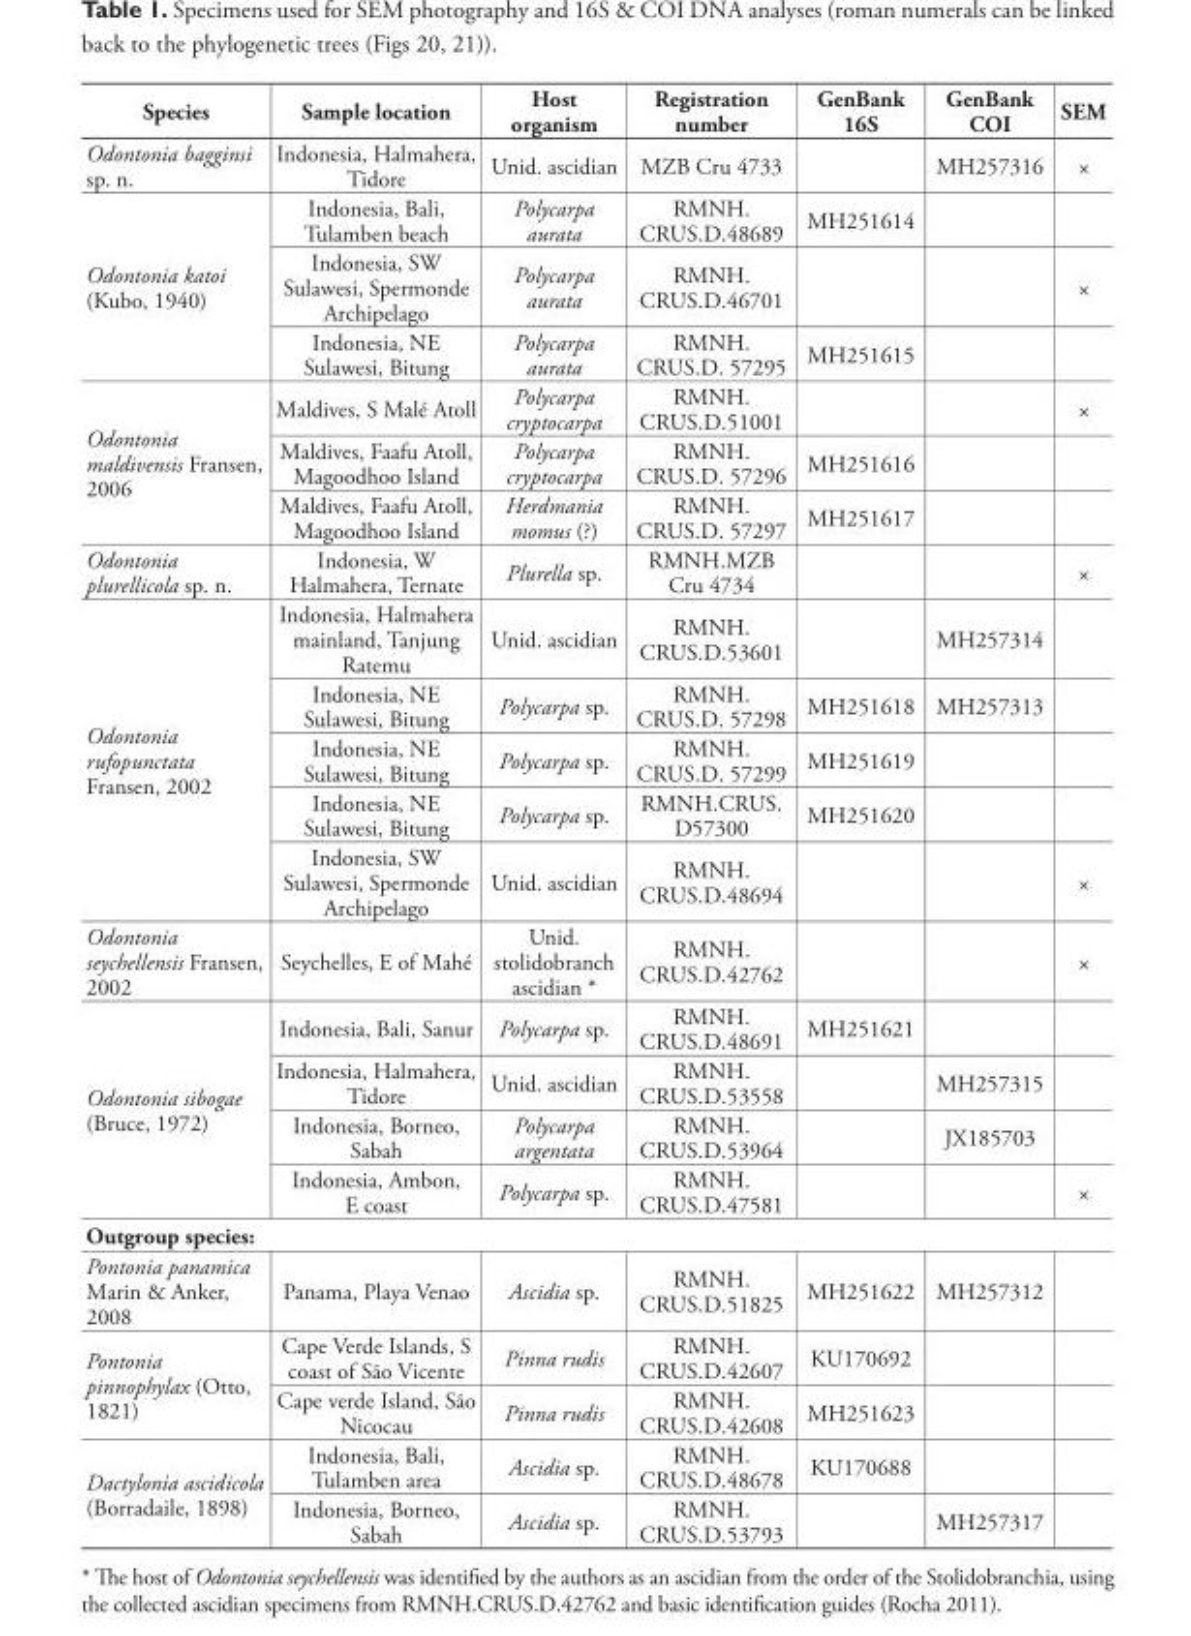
<table><thead><tr><td>Species</td><td>Sample location</td><td>Host organism</td><td>Registration number</td><td>GenBank 16S</td><td>GenBank COI</td><td>SEM</td></tr></thead><tbody><tr><td>Odontonia bagginsi sp. n.</td><td>Indonesia, Halmahera, Tidore</td><td>Unid. ascidian</td><td>MZB Cru 4733</td><td></td><td>MH257316</td><td>×</td></tr><tr><td rowspan="3">Odontonia katoi (Kubo, 1940)</td><td>Indonesia, Bali, Tulamben beach</td><td>Polycarpa aurata</td><td>RMNH. CRUS.D.48689</td><td>MH251614</td><td></td><td></td></tr><tr><td>Indonesia, SW Sulawesi, Spermonde Archipelago</td><td>Polycarpa aurata</td><td>RMNH. CRUS.D.46701</td><td></td><td></td><td>×</td></tr><tr><td>Indonesia, NE Sulawesi, Bitung</td><td>Polycarpa aurata</td><td>RMNH. CRUS.D. 57295</td><td>MH251615</td><td></td><td></td></tr><tr><td rowspan="3">Odontonia maldivensis Fransen, 2006</td><td>Maldives, S Malé Atoll</td><td>Polycarpa cryptocarpa</td><td>RMNH. CRUS.D.51001</td><td></td><td></td><td>×</td></tr><tr><td>Maldives, Faafu Atoll, Magoodhoo Island</td><td>Polycarpa cryptocarpa</td><td>RMNH. CRUS.D. 57296</td><td>MH251616</td><td></td><td></td></tr><tr><td>Maldives, Faafu Atoll, Magoodhoo Island</td><td>Herdmania momus (?)</td><td>RMNH. CRUS.D. 57297</td><td>MH251617</td><td></td><td></td></tr><tr><td>Odontonia plurellicola sp. n.</td><td>Indonesia, W Halmahera, Ternate</td><td>Plurella sp.</td><td>RMNH.MZB Cru 4734</td><td></td><td></td><td>×</td></tr><tr><td rowspan="5">Odontonia rufopunctata Fransen, 2002</td><td>Indonesia, Halmahera mainland, Tanjung Ratemu</td><td>Unid. ascidian</td><td>RMNH. CRUS.D.53601</td><td></td><td>MH257314</td><td></td></tr><tr><td>Indonesia, NE Sulawesi, Bitung</td><td>Polycarpa sp.</td><td>RMNH. CRUS.D. 57298</td><td>MH251618</td><td>MH257313</td><td></td></tr><tr><td>Indonesia, NE Sulawesi, Bitung</td><td>Polycarpa sp.</td><td>RMNH. CRUS.D. 57299</td><td>MH251619</td><td></td><td></td></tr><tr><td>Indonesia, NE Sulawesi, Bitung</td><td>Polycarpa sp.</td><td>RMNH.CRUS. D57300</td><td>MH251620</td><td></td><td></td></tr><tr><td>Indonesia, SW Sulawesi, Spermonde Archipelago</td><td>Unid. ascidian</td><td>RMNH. CRUS.D.48694</td><td></td><td></td><td>×</td></tr><tr><td>Odontonia seychellensis Fransen, 2002</td><td>Seychelles, E of Mahé</td><td>Unid. stolidobranch ascidian *</td><td>RMNH. CRUS.D.42762</td><td></td><td></td><td>×</td></tr><tr><td rowspan="4">Odontonia sibogae (Bruce, 1972)</td><td>Indonesia, Bali, Sanur</td><td>Polycarpa sp.</td><td>RMNH. CRUS.D.48691</td><td>MH251621</td><td></td><td></td></tr><tr><td>Indonesia, Halmahera, Tidore</td><td>Unid. ascidian</td><td>RMNH. CRUS.D.53558</td><td></td><td>MH257315</td><td></td></tr><tr><td>Indonesia, Borneo, Sabah</td><td>Polycarpa argentata</td><td>RMNH. CRUS.D.53964</td><td></td><td>JX185703</td><td></td></tr><tr><td>Indonesia, Ambon, E coast</td><td>Polycarpa sp.</td><td>RMNH. CRUS.D.47581</td><td></td><td></td><td>×</td></tr><tr><td colspan="7">Outgroup species:</td></tr><tr><td>Pontonia panamica Marin &amp; Anker, 2008</td><td>Panama, Playa Venao</td><td>Ascidia sp.</td><td>RMNH. CRUS.D.51825</td><td>MH251622</td><td>MH257312</td><td></td></tr><tr><td rowspan="2">Pontonia pinnophylax (Otto, 1821)</td><td>Cape Verde Islands, S coast of São Vicente</td><td>Pinna rudis</td><td>RMNH. CRUS.D.42607</td><td>KU170692</td><td></td><td></td></tr><tr><td>Cape verde Island, São Nicocau</td><td>Pinna rudis</td><td>RMNH. CRUS.D.42608</td><td>MH251623</td><td></td><td></td></tr><tr><td rowspan="2">Dactylonia ascidicola (Borradaile, 1898)</td><td>Indonesia, Bali, Tulamben area</td><td>Ascidia sp.</td><td>RMNH. CRUS.D.48678</td><td>KU170688</td><td></td><td></td></tr><tr><td>Indonesia, Borneo, Sabah</td><td>Ascidia sp.</td><td>RMNH. CRUS.D.53793</td><td></td><td>MH257317</td><td></td></tr></tbody></table>